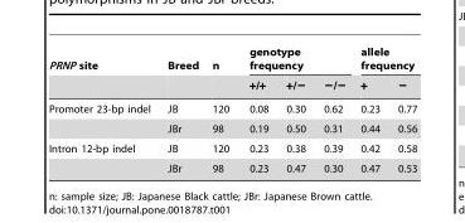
<table><thead><tr><td rowspan="2">PRNP site</td><td rowspan="2">Breed</td><td rowspan="2">n</td><td colspan="3">genotype frequency</td><td colspan="2">allele frequency</td></tr><tr><td>+/+</td><td>+/−</td><td>−/−</td><td>+</td><td>−</td></tr></thead><tbody><tr><td rowspan="2">Promoter 23-bp indel</td><td>JB</td><td>120</td><td>0.08</td><td>0.30</td><td>0.62</td><td>0.23</td><td>0.77</td></tr><tr><td>JBr</td><td>98</td><td>0.19</td><td>0.50</td><td>0.31</td><td>0.44</td><td>0.56</td></tr><tr><td rowspan="2">Intron 12-bp indel</td><td>JB</td><td>120</td><td>0.23</td><td>0.38</td><td>0.39</td><td>0.42</td><td>0.58</td></tr><tr><td>JBr</td><td>98</td><td>0.23</td><td>0.47</td><td>0.30</td><td>0.47</td><td>0.53</td></tr></tbody></table>